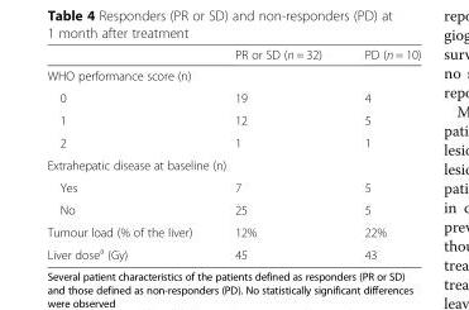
<table><thead><tr><td></td><td>PR or SD (n = 32)</td><td>PD (n = 10)</td></tr></thead><tbody><tr><td colspan="3">WHO performance score (n)</td></tr><tr><td>0</td><td>19</td><td>4</td></tr><tr><td>1</td><td>12</td><td>5</td></tr><tr><td>2</td><td>1</td><td>1</td></tr><tr><td colspan="3">Extrahepatic disease at baseline (n)</td></tr><tr><td>Yes</td><td>7</td><td>5</td></tr><tr><td>No</td><td>25</td><td>5</td></tr><tr><td>Tumour load (% of the liver)</td><td>12%</td><td>22%</td></tr><tr><td>Liver dose<sup>a</sup> (Gy)</td><td>45</td><td>43</td></tr></tbody></table>